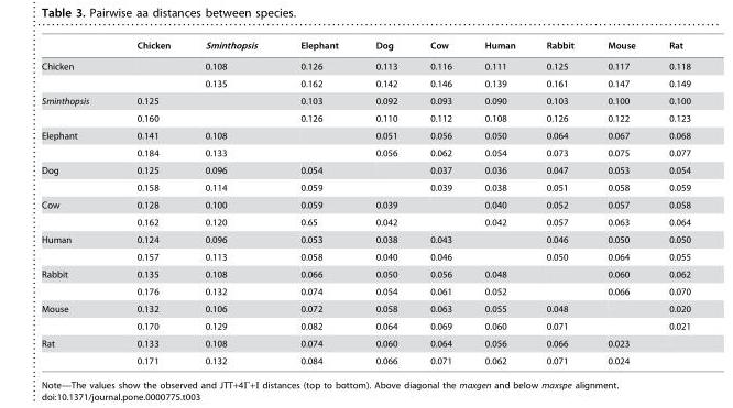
<table><thead><tr><td></td><td>Chicken</td><td>Sminthopsis</td><td>Elephant</td><td>Dog</td><td>Cow</td><td>Human</td><td>Rabbit</td><td>Mouse</td><td>Rat</td></tr></thead><tbody><tr><td rowspan="2">Chicken</td><td></td><td>0.108</td><td>0.126</td><td>0.113</td><td>0.116</td><td>0.111</td><td>0.125</td><td>0.117</td><td>0.118</td></tr><tr><td></td><td>0.135</td><td>0.162</td><td>0.142</td><td>0.146</td><td>0.139</td><td>0.161</td><td>0.147</td><td>0.149</td></tr><tr><td rowspan="2">Sminthopsis</td><td>0.125</td><td></td><td>0.103</td><td>0.092</td><td>0.093</td><td>0.090</td><td>0.103</td><td>0.100</td><td>0.100</td></tr><tr><td>0.160</td><td></td><td>0.126</td><td>0.110</td><td>0.112</td><td>0.108</td><td>0.126</td><td>0.122</td><td>0.123</td></tr><tr><td rowspan="2">Elephant</td><td>0.141</td><td>0.108</td><td></td><td>0.051</td><td>0.056</td><td>0.050</td><td>0.064</td><td>0.067</td><td>0.068</td></tr><tr><td>0.184</td><td>0.133</td><td></td><td>0.056</td><td>0.062</td><td>0.054</td><td>0.073</td><td>0.075</td><td>0.077</td></tr><tr><td rowspan="2">Dog</td><td>0.125</td><td>0.096</td><td>0.054</td><td></td><td>0.037</td><td>0.036</td><td>0.047</td><td>0.053</td><td>0.054</td></tr><tr><td>0.158</td><td>0.114</td><td>0.059</td><td></td><td>0.039</td><td>0.038</td><td>0.051</td><td>0.058</td><td>0.059</td></tr><tr><td rowspan="2">Cow</td><td>0.128</td><td>0.100</td><td>0.059</td><td>0.039</td><td></td><td>0.040</td><td>0.052</td><td>0.057</td><td>0.058</td></tr><tr><td>0.162</td><td>0.120</td><td>0.65</td><td>0.042</td><td></td><td>0.042</td><td>0.057</td><td>0.063</td><td>0.064</td></tr><tr><td rowspan="2">Human</td><td>0.124</td><td>0.096</td><td>0.053</td><td>0.038</td><td>0.043</td><td></td><td>0.046</td><td>0.050</td><td>0.050</td></tr><tr><td>0.157</td><td>0.113</td><td>0.058</td><td>0.040</td><td>0.046</td><td></td><td>0.050</td><td>0.064</td><td>0.055</td></tr><tr><td rowspan="2">Rabbit</td><td>0.135</td><td>0.108</td><td>0.066</td><td>0.050</td><td>0.056</td><td>0.048</td><td></td><td>0.060</td><td>0.062</td></tr><tr><td>0.176</td><td>0.132</td><td>0.074</td><td>0.054</td><td>0.061</td><td>0.052</td><td></td><td>0.066</td><td>0.070</td></tr><tr><td rowspan="2">Mouse</td><td>0.132</td><td>0.106</td><td>0.072</td><td>0.058</td><td>0.063</td><td>0.055</td><td>0.048</td><td></td><td>0.020</td></tr><tr><td>0.170</td><td>0.129</td><td>0.082</td><td>0.064</td><td>0.069</td><td>0.060</td><td>0.071</td><td></td><td>0.021</td></tr><tr><td rowspan="2">Rat</td><td>0.133</td><td>0.108</td><td>0.074</td><td>0.060</td><td>0.064</td><td>0.056</td><td>0.066</td><td>0.023</td><td></td></tr><tr><td>0.171</td><td>0.132</td><td>0.084</td><td>0.066</td><td>0.071</td><td>0.062</td><td>0.071</td><td>0.024</td><td></td></tr></tbody></table>